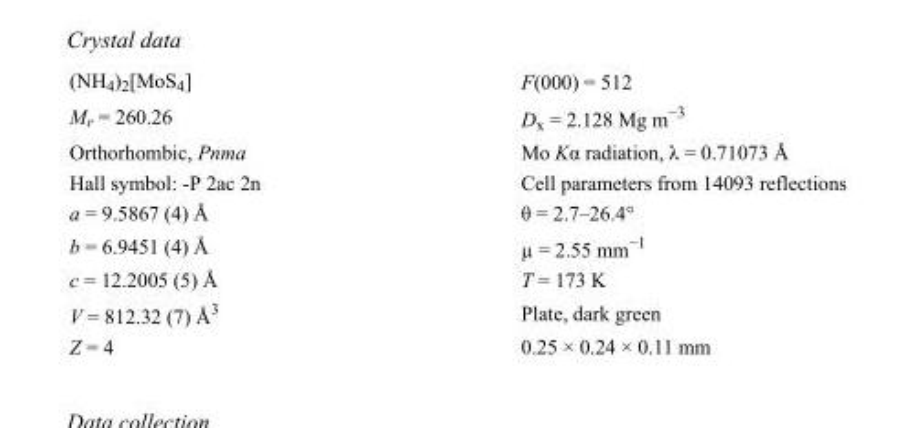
<table><tbody><tr><td>(NH<sub>4</sub>)<sub>2</sub>[MoS<sub>4</sub>]</td><td>F(000) = 512</td></tr><tr><td>M<sub>r</sub> = 260.26</td><td>D<sub>x</sub> = 2.128 Mg m<sup>−3</sup></td></tr><tr><td>Orthorhombic, Pnma</td><td>Mo Kα radiation, λ = 0.71073 Å</td></tr><tr><td>Hall symbol: -P 2ac 2n</td><td>Cell parameters from 14093 reflections</td></tr><tr><td>a = 9.5867 (4) Å</td><td>θ = 2.7–26.4°</td></tr><tr><td>b = 6.9451 (4) Å</td><td>µ = 2.55 mm<sup>−1</sup></td></tr><tr><td>c = 12.2005 (5) Å</td><td>T = 173 K</td></tr><tr><td>V = 812.32 (7) Å<sup>3</sup></td><td>Plate, dark green</td></tr><tr><td>Z = 4</td><td>0.25 × 0.24 × 0.11 mm</td></tr></tbody></table>